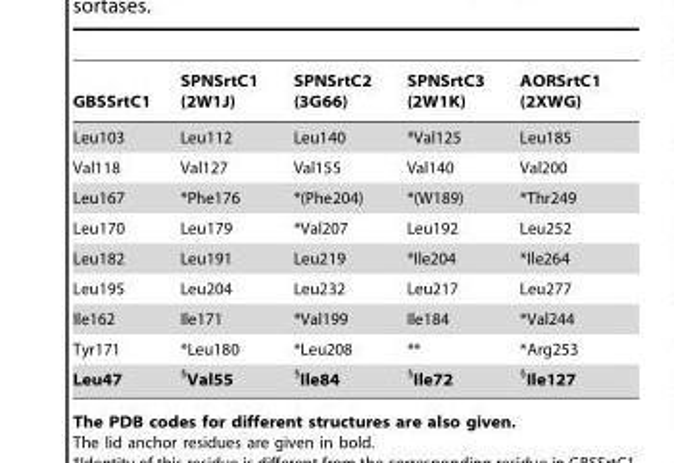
<table><thead><tr><td>GBSSrtC1</td><td>SPNSrtC1 (2W1J)</td><td>SPNSrtC2 (3G66)</td><td>SPNSrtC3 (2W1K)</td><td>AORSrtC1 (2XWG)</td></tr></thead><tbody><tr><td>Leu103</td><td>Leu112</td><td>Leu140</td><td>*Val125</td><td>Leu185</td></tr><tr><td>Val118</td><td>Val127</td><td>Val155</td><td>Val140</td><td>Val200</td></tr><tr><td>Leu167</td><td>*Phe176</td><td>*(Phe204)</td><td>*(W189)</td><td>*Thr249</td></tr><tr><td>Leu170</td><td>Leu179</td><td>*Val207</td><td>Leu192</td><td>Leu252</td></tr><tr><td>Leu182</td><td>Leu191</td><td>Leu219</td><td>*Ile204</td><td>*Ile264</td></tr><tr><td>Leu195</td><td>Leu204</td><td>Leu232</td><td>Leu217</td><td>Leu277</td></tr><tr><td>Ile162</td><td>Ile171</td><td>*Val199</td><td>Ile184</td><td>*Val244</td></tr><tr><td>Tyr171</td><td>*Leu180</td><td>*Leu208</td><td>**</td><td>*Arg253</td></tr><tr><td>Leu47</td><td>§Val55</td><td>§Ile84</td><td>§Ile72</td><td>§Ile127</td></tr></tbody></table>